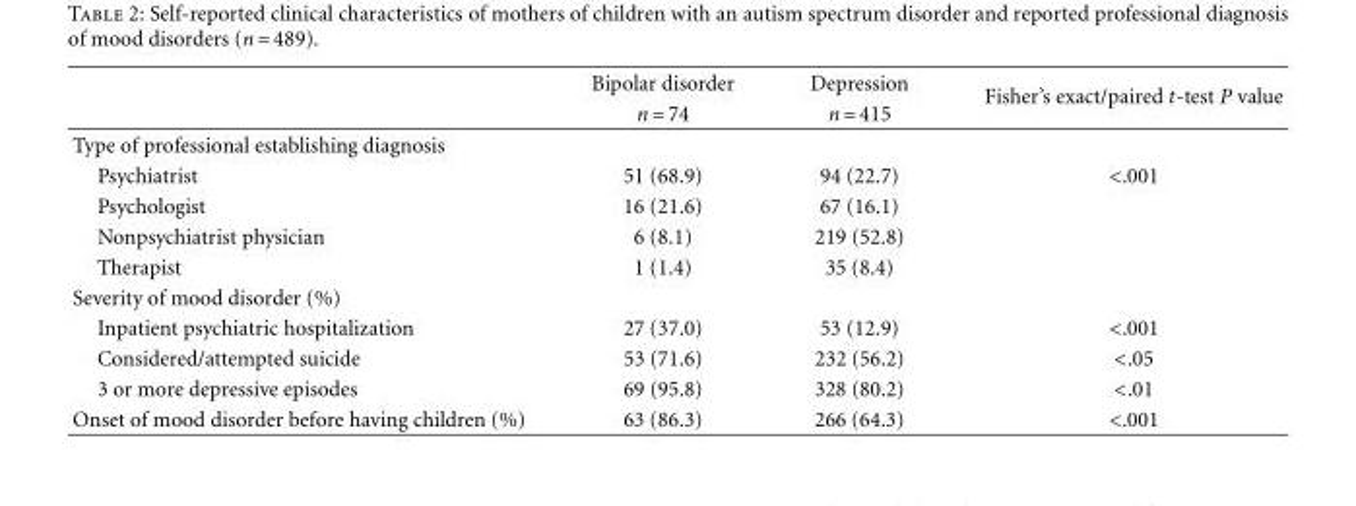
<table><thead><tr><td rowspan="2"></td><td rowspan="2">Bipolar disorder n = 74</td><td rowspan="2">Depression n = 415</td><td rowspan="2">Fisher’s exact/paired t-test P value</td></tr><tr></tr></thead><tbody><tr><td colspan="4">Type of professional establishing diagnosis</td></tr><tr><td>Psychiatrist</td><td>51 (68.9)</td><td>94 (22.7)</td><td>&lt;.001</td></tr><tr><td>Psychologist</td><td>16 (21.6)</td><td>67 (16.1)</td><td></td></tr><tr><td>Nonpsychiatrist physician</td><td>6 (8.1)</td><td>219 (52.8)</td><td></td></tr><tr><td>Therapist</td><td>1 (1.4)</td><td>35 (8.4)</td><td></td></tr><tr><td colspan="4">Severity of mood disorder (%)</td></tr><tr><td>Inpatient psychiatric hospitalization</td><td>27 (37.0)</td><td>53 (12.9)</td><td>&lt;.001</td></tr><tr><td>Considered/attempted suicide</td><td>53 (71.6)</td><td>232 (56.2)</td><td>&lt;.05</td></tr><tr><td>3 or more depressive episodes</td><td>69 (95.8)</td><td>328 (80.2)</td><td>&lt;.01</td></tr><tr><td>Onset of mood disorder before having children (%)</td><td>63 (86.3)</td><td>266 (64.3)</td><td>&lt;.001</td></tr></tbody></table>